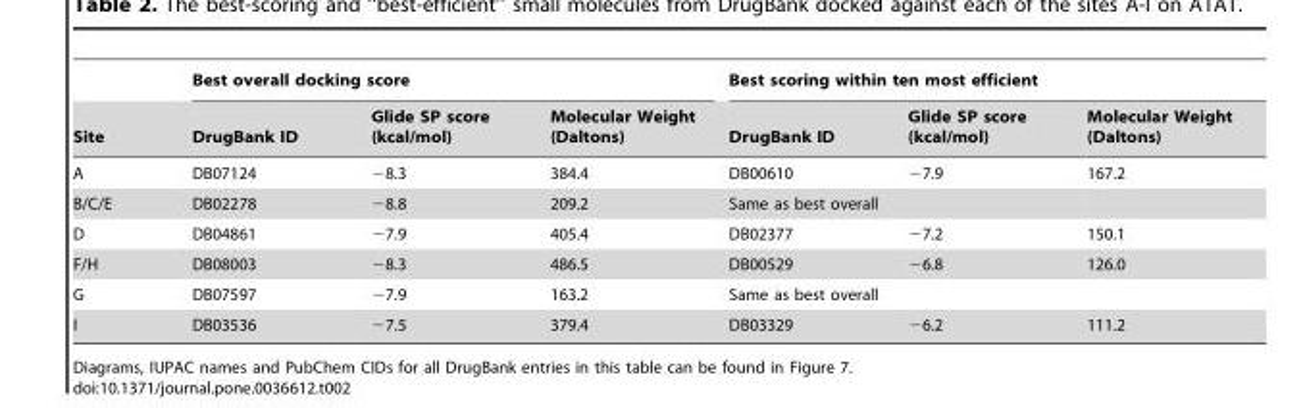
<table><thead><tr><td rowspan="2">Site</td><td colspan="3">Best overall docking score</td><td colspan="3">Best scoring within ten most efficient</td></tr><tr><td>DrugBank ID</td><td>Glide SP score (kcal/mol)</td><td>Molecular Weight (Daltons)</td><td>DrugBank ID</td><td>Glide SP score (kcal/mol)</td><td>Molecular Weight (Daltons)</td></tr></thead><tbody><tr><td>A</td><td>DB07124</td><td>−8.3</td><td>384.4</td><td>DB00610</td><td>−7.9</td><td>167.2</td></tr><tr><td>B/C/E</td><td>DB02278</td><td>−8.8</td><td>209.2</td><td>Same as best overall</td><td></td><td></td></tr><tr><td>D</td><td>DB04861</td><td>−7.9</td><td>405.4</td><td>DB02377</td><td>−7.2</td><td>150.1</td></tr><tr><td>F/H</td><td>DB08003</td><td>−8.3</td><td>486.5</td><td>DB00529</td><td>−6.8</td><td>126.0</td></tr><tr><td>G</td><td>DB07597</td><td>−7.9</td><td>163.2</td><td>Same as best overall</td><td></td><td></td></tr><tr><td>I</td><td>DB03536</td><td>−7.5</td><td>379.4</td><td>DB03329</td><td>−6.2</td><td>111.2</td></tr></tbody></table>